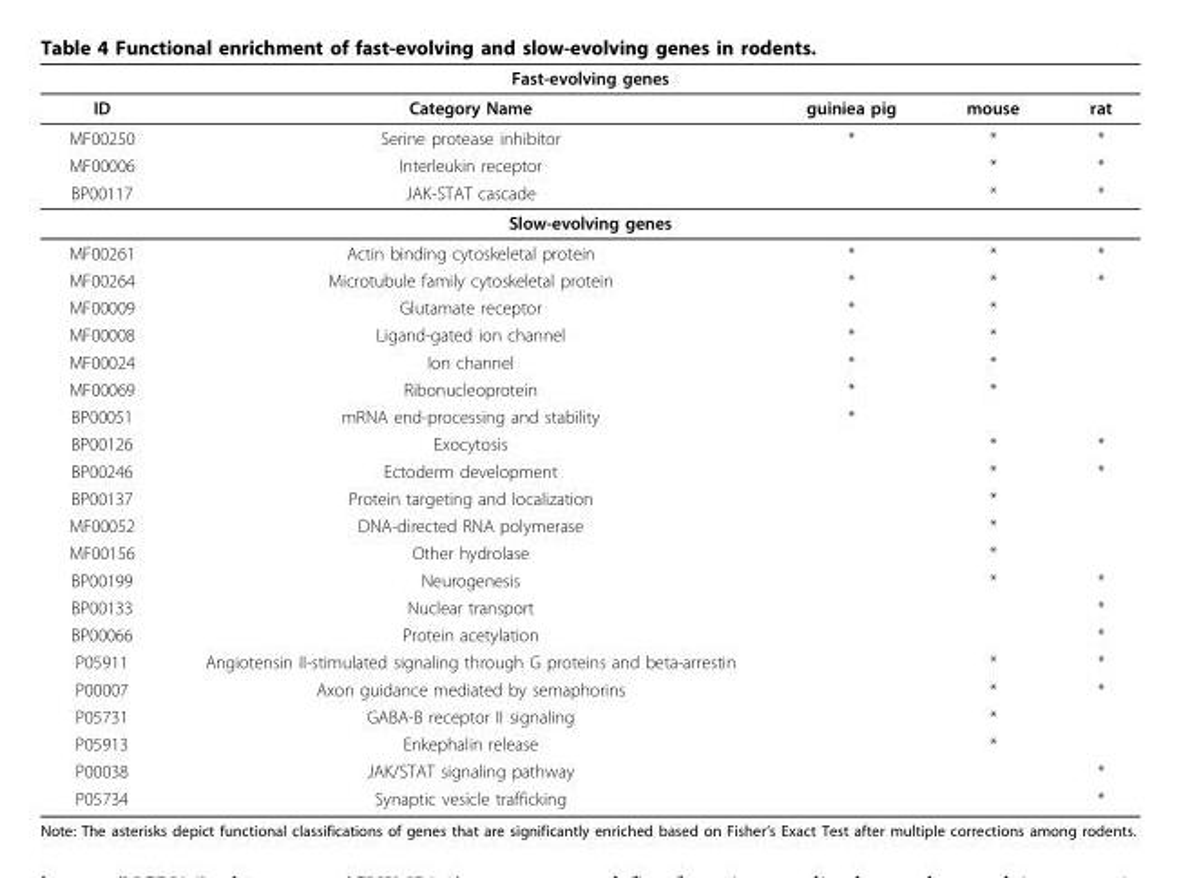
<table><thead><tr><td colspan="5">Fast-evolving genes</td></tr><tr><td>ID</td><td>Category Name</td><td>guiniea pig</td><td>mouse</td><td>rat</td></tr></thead><tbody><tr><td>MF00250</td><td>Serine protease inhibitor</td><td>*</td><td>*</td><td>*</td></tr><tr><td>MF00006</td><td>Interleukin receptor</td><td></td><td>*</td><td>*</td></tr><tr><td>BP00117</td><td>JAK-STAT cascade</td><td></td><td>*</td><td>*</td></tr><tr><td colspan="5">Slow-evolving genes</td></tr><tr><td>MF00261</td><td>Actin binding cytoskeletal protein</td><td>*</td><td>*</td><td>*</td></tr><tr><td>MF00264</td><td>Microtubule family cytoskeletal protein</td><td>*</td><td>*</td><td>*</td></tr><tr><td>MF00009</td><td>Glutamate receptor</td><td>*</td><td>*</td><td></td></tr><tr><td>MF00008</td><td>Ligand-gated ion channel</td><td>*</td><td>*</td><td></td></tr><tr><td>MF00024</td><td>Ion channel</td><td>*</td><td>*</td><td></td></tr><tr><td>MF00069</td><td>Ribonucleoprotein</td><td>*</td><td>*</td><td></td></tr><tr><td>BP00051</td><td>mRNA end-processing and stability</td><td>*</td><td></td><td></td></tr><tr><td>BP00126</td><td>Exocytosis</td><td></td><td>*</td><td>*</td></tr><tr><td>BP00246</td><td>Ectoderm development</td><td></td><td>*</td><td>*</td></tr><tr><td>BP00137</td><td>Protein targeting and localization</td><td></td><td>*</td><td></td></tr><tr><td>MF00052</td><td>DNA-directed RNA polymerase</td><td></td><td>*</td><td></td></tr><tr><td>MF00156</td><td>Other hydrolase</td><td></td><td>*</td><td></td></tr><tr><td>BP00199</td><td>Neurogenesis</td><td></td><td>*</td><td>*</td></tr><tr><td>BP00133</td><td>Nuclear transport</td><td></td><td></td><td>*</td></tr><tr><td>BP00066</td><td>Protein acetylation</td><td></td><td></td><td>*</td></tr><tr><td>P05911</td><td>Angiotensin II-stimulated signaling through G proteins and beta-arrestin</td><td></td><td>*</td><td>*</td></tr><tr><td>P00007</td><td>Axon guidance mediated by semaphorins</td><td></td><td>*</td><td>*</td></tr><tr><td>P05731</td><td>GABA-B receptor II signaling</td><td></td><td>*</td><td></td></tr><tr><td>P05913</td><td>Enkephalin release</td><td></td><td>*</td><td></td></tr><tr><td>P00038</td><td>JAK/STAT signaling pathway</td><td></td><td></td><td>*</td></tr><tr><td>P05734</td><td>Synaptic vesicle trafficking</td><td></td><td></td><td>*</td></tr></tbody></table>